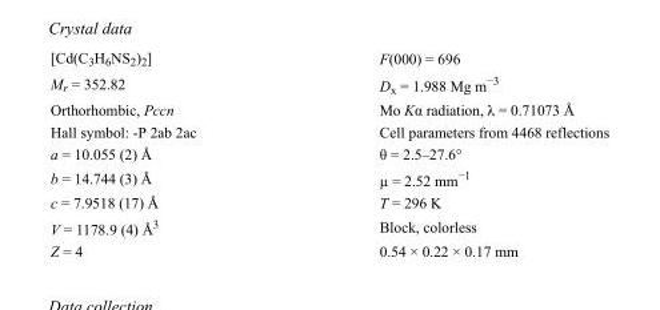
<table><tbody><tr><td>[Cd(C<sub>3</sub>H<sub>6</sub>NS<sub>2</sub>)<sub>2</sub>]</td><td>F(000) = 696</td></tr><tr><td>M<sub>r</sub> = 352.82</td><td>D<sub>x</sub> = 1.988 Mg m<sup>−3</sup></td></tr><tr><td>Orthorhombic, Pccn</td><td>Mo Kα radiation, λ = 0.71073 Å</td></tr><tr><td>Hall symbol: -P 2ab 2ac</td><td>Cell parameters from 4468 reflections</td></tr><tr><td>a = 10.055 (2) Å</td><td>θ = 2.5–27.6°</td></tr><tr><td>b = 14.744 (3) Å</td><td>µ = 2.52 mm<sup>−1</sup></td></tr><tr><td>c = 7.9518 (17) Å</td><td>T = 296 K</td></tr><tr><td>V = 1178.9 (4) Å<sup>3</sup></td><td>Block, colorless</td></tr><tr><td>Z = 4</td><td>0.54 × 0.22 × 0.17 mm</td></tr></tbody></table>